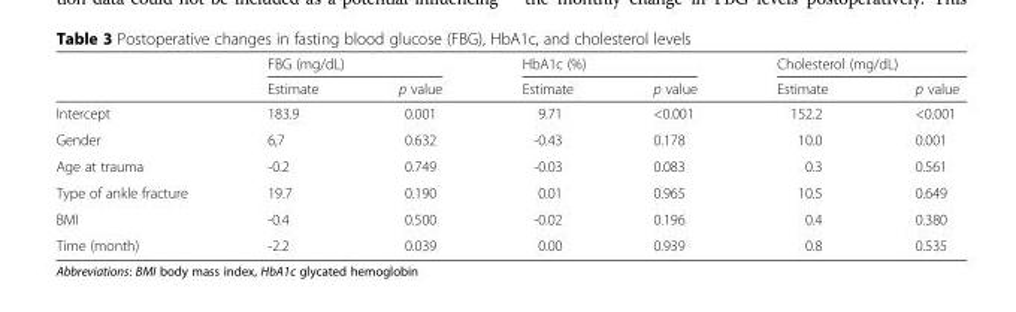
<table><thead><tr><td rowspan="2"></td><td colspan="2">FBG (mg/dL)</td><td colspan="2">HbA1c (%)</td><td colspan="2">Cholesterol (mg/dL)</td></tr><tr><td>Estimate</td><td>p value</td><td>Estimate</td><td>p value</td><td>Estimate</td><td>p value</td></tr></thead><tbody><tr><td>Intercept</td><td>183.9</td><td>0.001</td><td>9.71</td><td>&lt;0.001</td><td>152.2</td><td>&lt;0.001</td></tr><tr><td>Gender</td><td>6,7</td><td>0.632</td><td>-0.43</td><td>0.178</td><td>10.0</td><td>0.001</td></tr><tr><td>Age at trauma</td><td>-0.2</td><td>0.749</td><td>-0.03</td><td>0.083</td><td>0.3</td><td>0.561</td></tr><tr><td>Type of ankle fracture</td><td>19.7</td><td>0.190</td><td>0.01</td><td>0.965</td><td>10.5</td><td>0.649</td></tr><tr><td>BMI</td><td>-0.4</td><td>0.500</td><td>-0.02</td><td>0.196</td><td>0.4</td><td>0.380</td></tr><tr><td>Time (month)</td><td>-2.2</td><td>0.039</td><td>0.00</td><td>0.939</td><td>0.8</td><td>0.535</td></tr></tbody></table>